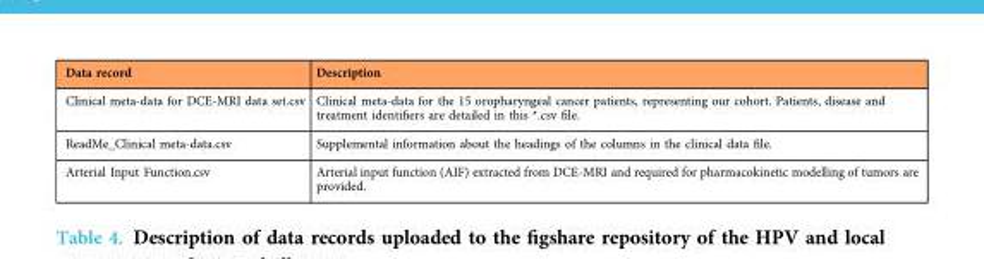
<table><thead><tr><td>Data record</td><td>Description</td></tr></thead><tbody><tr><td>Clinical meta-data for DCE-MRI data set.csv</td><td>Clinical meta-data for the 15 oropharyngeal cancer patients, representing our cohort. Patients, disease and treatment identifiers are detailed in this *.csv file.</td></tr><tr><td>ReadMe_Clinical meta-data.csv</td><td>Supplemental information about the headings of the columns in the clinical data file.</td></tr><tr><td>Arterial Input Function.csv</td><td>Arterial input function (AIF) extracted from DCE-MRI and required for pharmacokinetic modelling of tumors are provided.</td></tr></tbody></table>